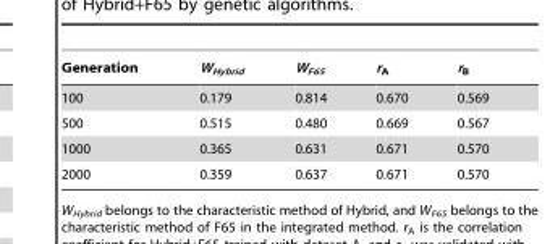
<table><thead><tr><td>Generation</td><td>W<sub>Hybrid</sub></td><td>W<sub>F65</sub></td><td>r<sub>A</sub></td><td>r<sub>B</sub></td></tr></thead><tbody><tr><td>100</td><td>0.179</td><td>0.814</td><td>0.670</td><td>0.569</td></tr><tr><td>500</td><td>0.515</td><td>0.480</td><td>0.669</td><td>0.567</td></tr><tr><td>1000</td><td>0.365</td><td>0.631</td><td>0.671</td><td>0.570</td></tr><tr><td>2000</td><td>0.359</td><td>0.637</td><td>0.671</td><td>0.570</td></tr></tbody></table>